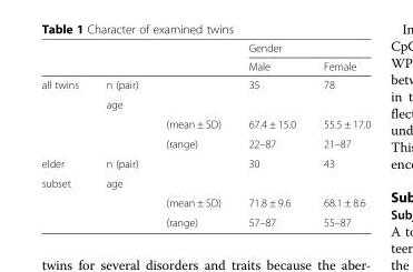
<table><thead><tr><td rowspan="2"></td><td rowspan="2"></td><td rowspan="2"></td><td colspan="2">Gender</td></tr><tr><td>Male</td><td>Female</td></tr></thead><tbody><tr><td rowspan="4">all twins</td><td>n (pair)</td><td></td><td>35</td><td>78</td></tr><tr><td>age</td><td></td><td></td><td></td></tr><tr><td></td><td>(mean ± SD)</td><td>67.4 ± 15.0</td><td>55.5 ± 17.0</td></tr><tr><td></td><td>(range)</td><td>22–87</td><td>21–87</td></tr><tr><td>elder</td><td>n (pair)</td><td></td><td>30</td><td>43</td></tr><tr><td rowspan="3">subset</td><td>age</td><td></td><td></td><td></td></tr><tr><td></td><td>(mean ± SD)</td><td>71.8 ± 9.6</td><td>68.1 ± 8.6</td></tr><tr><td></td><td>(range)</td><td>57–87</td><td>55–87</td></tr></tbody></table>